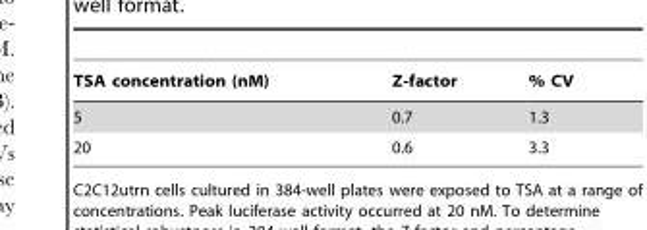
<table><thead><tr><td>TSA concentration (nM)</td><td>Z-factor</td><td>% CV</td></tr></thead><tbody><tr><td>5</td><td>0.7</td><td>1.3</td></tr><tr><td>20</td><td>0.6</td><td>3.3</td></tr></tbody></table>